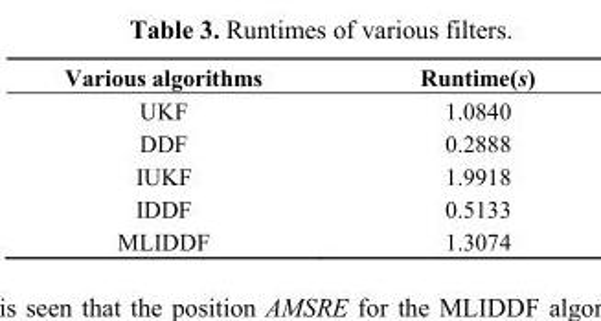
<table><thead><tr><td>Various algorithms</td><td>Runtime(s)</td></tr></thead><tbody><tr><td>UKF</td><td>1.0840</td></tr><tr><td>DDF</td><td>0.2888</td></tr><tr><td>IUKF</td><td>1.9918</td></tr><tr><td>IDDF</td><td>0.5133</td></tr><tr><td>MLIDDF</td><td>1.3074</td></tr></tbody></table>